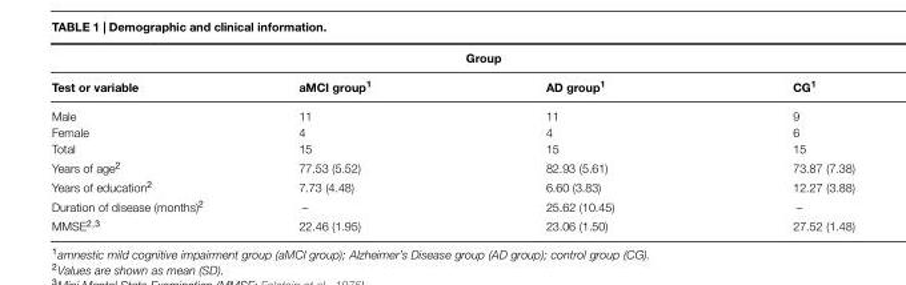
<table><thead><tr><td colspan="4">Group</td></tr><tr><td>Test or variable</td><td>aMCI group<sup>1</sup></td><td>AD group<sup>1</sup></td><td>CG<sup>1</sup></td></tr></thead><tbody><tr><td>Male Female Total</td><td>11 4 15</td><td>11 4 15</td><td>9 6 15</td></tr><tr><td>Years of age<sup>2</sup></td><td>77.53 (5.52)</td><td>82.93 (5.61)</td><td>73.87 (7.38)</td></tr><tr><td>Years of education<sup>2</sup></td><td>7.73 (4.48)</td><td>6.60 (3.83)</td><td>12.27 (3.88)</td></tr><tr><td>Duration of disease (months)<sup>2</sup></td><td>–</td><td>25.62 (10.45)</td><td>–</td></tr><tr><td>MMSE<sup>2,3</sup></td><td>22.46 (1.95)</td><td>23.06 (1.50)</td><td>27.52 (1.48)</td></tr></tbody></table>